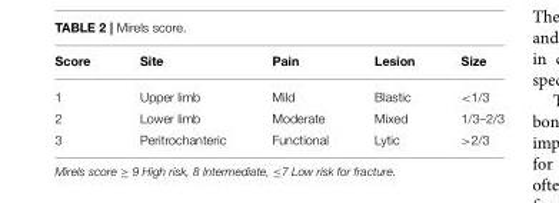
<table><thead><tr><td>Score</td><td>Site</td><td>Pain</td><td>Lesion</td><td>Size</td></tr></thead><tbody><tr><td>1</td><td>Upper limb</td><td>Mild</td><td>Blastic</td><td>&lt;1/3</td></tr><tr><td>2</td><td>Lower limb</td><td>Moderate</td><td>Mixed</td><td>1/3–2/3</td></tr><tr><td>3</td><td>Peritrochanteric</td><td>Functional</td><td>Lytic</td><td>&gt;2/3</td></tr></tbody></table>